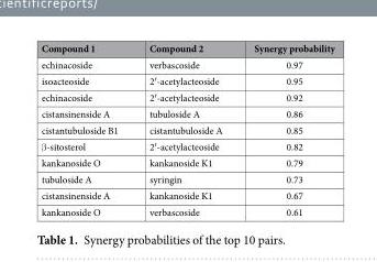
<table><thead><tr><td>Compound 1</td><td>Compound 2</td><td>Synergy probability</td></tr></thead><tbody><tr><td>echinacoside</td><td>verbascoside</td><td>0.97</td></tr><tr><td>isoacteoside</td><td>2′-acetylacteoside</td><td>0.95</td></tr><tr><td>echinacoside</td><td>2′-acetylacteoside</td><td>0.92</td></tr><tr><td>cistansinenside A</td><td>tubuloside A</td><td>0.86</td></tr><tr><td>cistantubuloside B1</td><td>cistantubuloside A</td><td>0.85</td></tr><tr><td>β-sitosterol</td><td>2′-acetylacteoside</td><td>0.82</td></tr><tr><td>kankanoside O</td><td>kankanoside K1</td><td>0.79</td></tr><tr><td>tubuloside A</td><td>syringin</td><td>0.73</td></tr><tr><td>cistansinenside A</td><td>kankanoside K1</td><td>0.67</td></tr><tr><td>kankanoside O</td><td>verbascoside</td><td>0.61</td></tr></tbody></table>